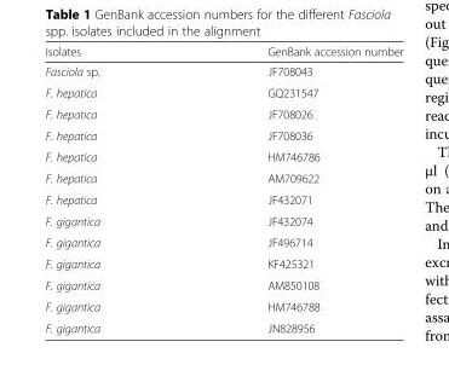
<table><thead><tr><td>Isolates</td><td>GenBank accession number</td></tr></thead><tbody><tr><td>Fasciola sp.</td><td>JF708043</td></tr><tr><td>F. hepatica</td><td>GQ231547</td></tr><tr><td>F. hepatica</td><td>JF708026</td></tr><tr><td>F. hepatica</td><td>JF708036</td></tr><tr><td>F. hepatica</td><td>HM746786</td></tr><tr><td>F. hepatica</td><td>AM709622</td></tr><tr><td>F. hepatica</td><td>JF432071</td></tr><tr><td>F. gigantica</td><td>JF432074</td></tr><tr><td>F. gigantica</td><td>JF496714</td></tr><tr><td>F. gigantica</td><td>KF425321</td></tr><tr><td>F. gigantica</td><td>AM850108</td></tr><tr><td>F. gigantica</td><td>HM746788</td></tr><tr><td>F. gigantica</td><td>JN828956</td></tr></tbody></table>